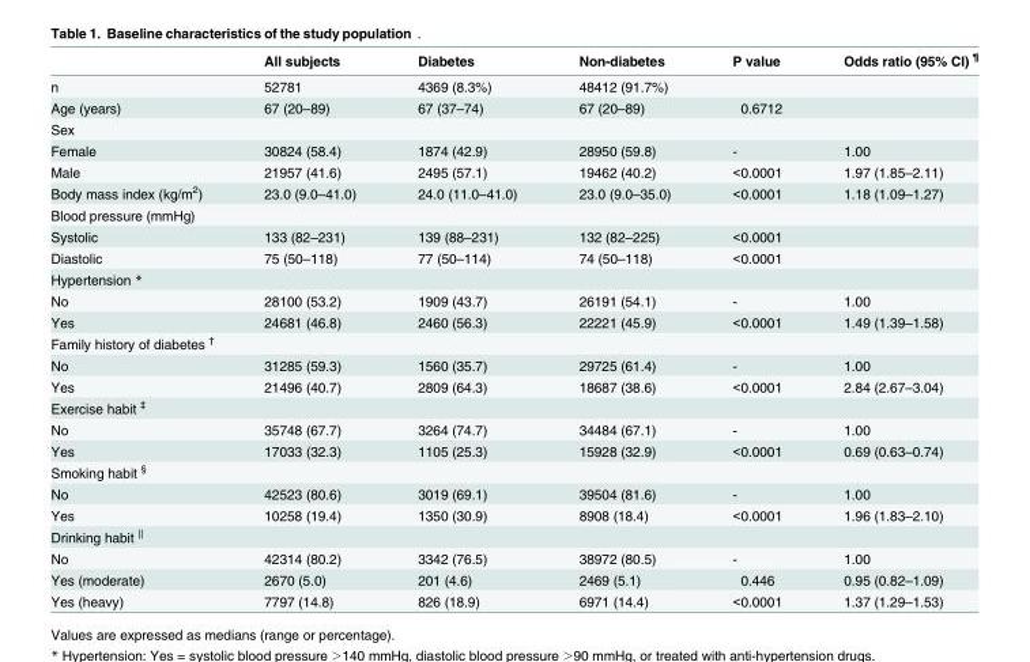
<table><thead><tr><td></td><td>All subjects</td><td>Diabetes</td><td>Non-diabetes</td><td>P value</td><td>Odds ratio (95% CI) <sup>¶</sup></td></tr></thead><tbody><tr><td>n</td><td>52781</td><td>4369 (8.3%)</td><td>48412 (91.7%)</td><td></td><td></td></tr><tr><td>Age (years)</td><td>67 (20–89)</td><td>67 (37–74)</td><td>67 (20–89)</td><td>0.6712</td><td></td></tr><tr><td colspan="6">Sex</td></tr><tr><td>Female</td><td>30824 (58.4)</td><td>1874 (42.9)</td><td>28950 (59.8)</td><td>-</td><td>1.00</td></tr><tr><td>Male</td><td>21957 (41.6)</td><td>2495 (57.1)</td><td>19462 (40.2)</td><td>&lt;0.0001</td><td>1.97 (1.85–2.11)</td></tr><tr><td>Body mass index (kg/m<sup>2</sup>)</td><td>23.0 (9.0–41.0)</td><td>24.0 (11.0–41.0)</td><td>23.0 (9.0–35.0)</td><td>&lt;0.0001</td><td>1.18 (1.09–1.27)</td></tr><tr><td colspan="6">Blood pressure (mmHg)</td></tr><tr><td>Systolic</td><td>133 (82–231)</td><td>139 (88–231)</td><td>132 (82–225)</td><td>&lt;0.0001</td><td></td></tr><tr><td>Diastolic</td><td>75 (50–118)</td><td>77 (50–114)</td><td>74 (50–118)</td><td>&lt;0.0001</td><td></td></tr><tr><td colspan="6">Hypertension *</td></tr><tr><td>No</td><td>28100 (53.2)</td><td>1909 (43.7)</td><td>26191 (54.1)</td><td>-</td><td>1.00</td></tr><tr><td>Yes</td><td>24681 (46.8)</td><td>2460 (56.3)</td><td>22221 (45.9)</td><td>&lt;0.0001</td><td>1.49 (1.39–1.58)</td></tr><tr><td colspan="6">Family history of diabetes <sup>†</sup></td></tr><tr><td>No</td><td>31285 (59.3)</td><td>1560 (35.7)</td><td>29725 (61.4)</td><td>-</td><td>1.00</td></tr><tr><td>Yes</td><td>21496 (40.7)</td><td>2809 (64.3)</td><td>18687 (38.6)</td><td>&lt;0.0001</td><td>2.84 (2.67–3.04)</td></tr><tr><td colspan="6">Exercise habit <sup>‡</sup></td></tr><tr><td>No</td><td>35748 (67.7)</td><td>3264 (74.7)</td><td>34484 (67.1)</td><td>-</td><td>1.00</td></tr><tr><td>Yes</td><td>17033 (32.3)</td><td>1105 (25.3)</td><td>15928 (32.9)</td><td>&lt;0.0001</td><td>0.69 (0.63–0.74)</td></tr><tr><td colspan="6">Smoking habit <sup>§</sup></td></tr><tr><td>No</td><td>42523 (80.6)</td><td>3019 (69.1)</td><td>39504 (81.6)</td><td>-</td><td>1.00</td></tr><tr><td>Yes</td><td>10258 (19.4)</td><td>1350 (30.9)</td><td>8908 (18.4)</td><td>&lt;0.0001</td><td>1.96 (1.83–2.10)</td></tr><tr><td colspan="6">Drinking habit <sup>||</sup></td></tr><tr><td>No</td><td>42314 (80.2)</td><td>3342 (76.5)</td><td>38972 (80.5)</td><td>-</td><td>1.00</td></tr><tr><td>Yes (moderate)</td><td>2670 (5.0)</td><td>201 (4.6)</td><td>2469 (5.1)</td><td>0.446</td><td>0.95 (0.82–1.09)</td></tr><tr><td>Yes (heavy)</td><td>7797 (14.8)</td><td>826 (18.9)</td><td>6971 (14.4)</td><td>&lt;0.0001</td><td>1.37 (1.29–1.53)</td></tr></tbody></table>